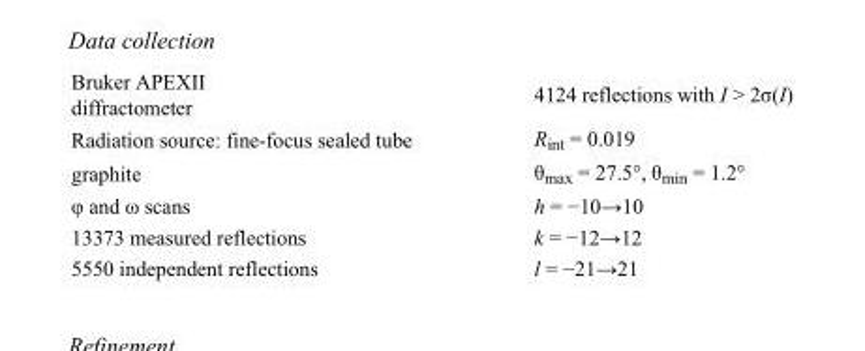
<table><tbody><tr><td>Bruker APEXII diffractometer</td><td>4124 reflections with I &gt; 2σ(I)</td></tr><tr><td>Radiation source: fine-focus sealed tube</td><td>R<sub>int</sub> = 0.019</td></tr><tr><td>graphite</td><td>θ<sub>max</sub> = 27.5°, θ<sub>min</sub> = 1.2°</td></tr><tr><td>φ and ω scans</td><td>h = −10→10</td></tr><tr><td>13373 measured reflections</td><td>k = −12→12</td></tr><tr><td>5550 independent reflections</td><td>l = −21→21</td></tr></tbody></table>